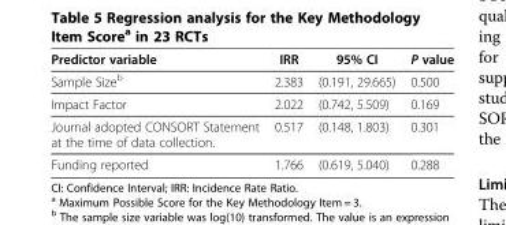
<table><thead><tr><td>Predictor variable</td><td>IRR</td><td>95% CI</td><td>P value</td></tr></thead><tbody><tr><td>Sample Size<sup>b</sup></td><td>2.383</td><td>(0.191, 29.665)</td><td>0.500</td></tr><tr><td>Impact Factor</td><td>2.022</td><td>(0.742, 5.509)</td><td>0.169</td></tr><tr><td>Journal adopted CONSORT Statement at the time of data collection.</td><td>0.517</td><td>(0.148, 1.803)</td><td>0.301</td></tr><tr><td>Funding reported</td><td>1.766</td><td>(0.619, 5.040)</td><td>0.288</td></tr></tbody></table>